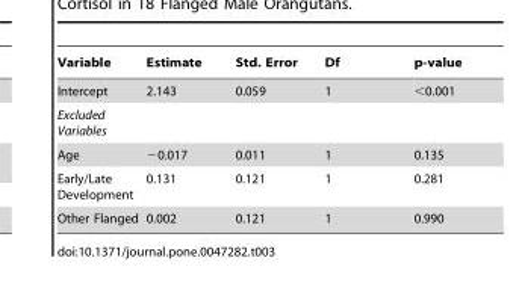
<table><thead><tr><td>Variable</td><td>Estimate</td><td>Std. Error</td><td>Df</td><td>p-value</td></tr></thead><tbody><tr><td>Intercept</td><td>2.143</td><td>0.059</td><td>1</td><td>&lt;0.001</td></tr><tr><td colspan="5">Excluded Variables</td></tr><tr><td>Age</td><td>−0.017</td><td>0.011</td><td>1</td><td>0.135</td></tr><tr><td>Early/Late Development</td><td>0.131</td><td>0.121</td><td>1</td><td>0.281</td></tr><tr><td>Other Flanged</td><td>0.002</td><td>0.121</td><td>1</td><td>0.990</td></tr></tbody></table>